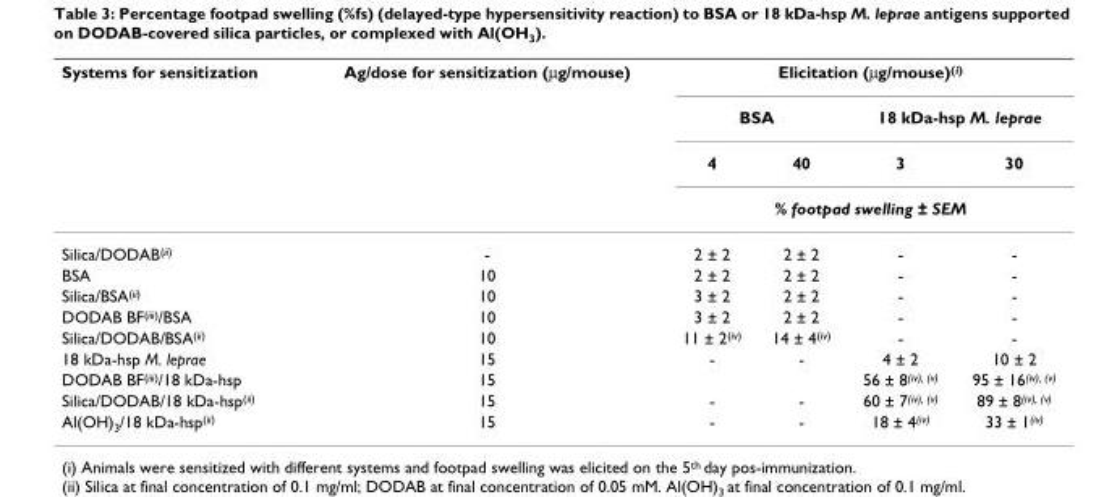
<table><thead><tr><td rowspan="4">Systems for sensitization</td><td rowspan="4">Ag/dose for sensitization (μg/mouse)</td><td colspan="4">Elicitation (μg/mouse)<sup>(i)</sup></td></tr><tr><td colspan="2">BSA</td><td colspan="2">18 kDa-hsp M. leprae</td></tr><tr><td>4</td><td>40</td><td>3</td><td>30</td></tr><tr><td colspan="4">% footpad swelling ± SEM</td></tr></thead><tbody><tr><td>Silica/DODAB<sup>(ii)</sup></td><td>-</td><td>2 ± 2</td><td>2 ± 2</td><td>-</td><td>-</td></tr><tr><td>BSA</td><td>10</td><td>2 ± 2</td><td>2 ± 2</td><td>-</td><td>-</td></tr><tr><td>Silica/BSA<sup>(ii)</sup></td><td>10</td><td>3 ± 2</td><td>2 ± 2</td><td>-</td><td>-</td></tr><tr><td>DODAB BF<sup>(iii)</sup>/BSA</td><td>10</td><td>3 ± 2</td><td>2 ± 2</td><td>-</td><td>-</td></tr><tr><td>Silica/DODAB/BSA<sup>(ii)</sup></td><td>10</td><td>11 ± 2<sup>(iv)</sup></td><td>14 ± 4<sup>(iv)</sup></td><td>-</td><td>-</td></tr><tr><td>18 kDa-hsp M. leprae</td><td>15</td><td>-</td><td>-</td><td>4 ± 2</td><td>10 ± 2</td></tr><tr><td>DODAB BF<sup>(iii)</sup>/18 kDa-hsp</td><td>15</td><td></td><td></td><td>56 ± 8<sup>(iv), (v)</sup></td><td>95 ± 16<sup>(iv), (v)</sup></td></tr><tr><td>Silica/DODAB/18 kDa-hsp<sup>(ii)</sup></td><td>15</td><td>-</td><td>-</td><td>60 ± 7<sup>(iv), (v)</sup></td><td>89 ± 8<sup>(iv), (v)</sup></td></tr><tr><td>Al(OH)<sub>3</sub>/18 kDa-hsp<sup>(ii)</sup></td><td>15</td><td>-</td><td>-</td><td>18 ± 4<sup>(iv)</sup></td><td>33 ± 1<sup>(iv)</sup></td></tr></tbody></table>